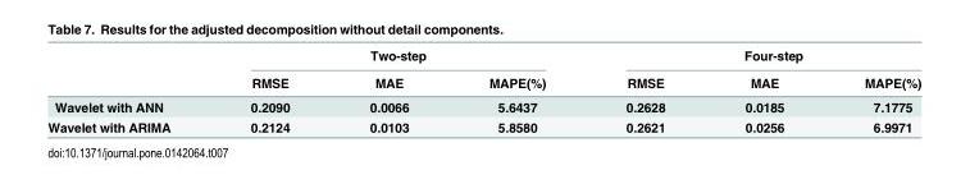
<table><thead><tr><td rowspan="2"></td><td colspan="3">Two-step</td><td colspan="3">Four-step</td></tr><tr><td>RMSE</td><td>MAE</td><td>MAPE(%)</td><td>RMSE</td><td>MAE</td><td>MAPE(%)</td></tr></thead><tbody><tr><td>Wavelet with ANN</td><td>0.2090</td><td>0.0066</td><td>5.6437</td><td>0.2628</td><td>0.0185</td><td>7.1775</td></tr><tr><td>Wavelet with ARIMA</td><td>0.2124</td><td>0.0103</td><td>5.8580</td><td>0.2621</td><td>0.0256</td><td>6.9971</td></tr></tbody></table>